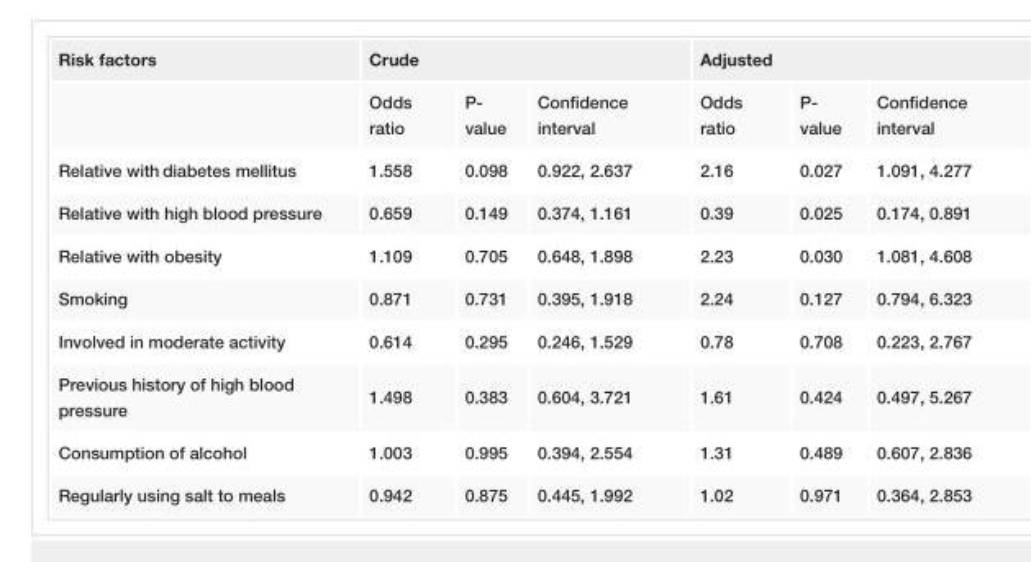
<table><tbody><tr><td rowspan="2">Risk factors</td><td colspan="3">Crude</td><td colspan="3">Adjusted</td></tr><tr><td>Odds ratio</td><td>P- value</td><td>Confidence interval</td><td>Odds ratio</td><td>P- value</td><td>Confidence interval</td></tr><tr><td>Relative with diabetes mellitus</td><td>1.558</td><td>0.098</td><td>0.922, 2.637</td><td>2.16</td><td>0.027</td><td>1.091, 4.277</td></tr><tr><td>Relative with high blood pressure</td><td>0.659</td><td>0.149</td><td>0.374, 1.161</td><td>0.39</td><td>0.025</td><td>0.174, 0.891</td></tr><tr><td>Relative with obesity</td><td>1.109</td><td>0.705</td><td>0.648, 1.898</td><td>2.23</td><td>0.030</td><td>1.081, 4.608</td></tr><tr><td>Smoking</td><td>0.871</td><td>0.731</td><td>0.395, 1.918</td><td>2.24</td><td>0.127</td><td>0.794, 6.323</td></tr><tr><td>Involved in moderate activity</td><td>0.614</td><td>0.295</td><td>0.246, 1.529</td><td>0.78</td><td>0.708</td><td>0.223, 2.767</td></tr><tr><td>Previous history of high blood pressure</td><td>1.498</td><td>0.383</td><td>0.604, 3.721</td><td>1.61</td><td>0.424</td><td>0.497, 5.267</td></tr><tr><td>Consumption of alcohol</td><td>1.003</td><td>0.995</td><td>0.394, 2.554</td><td>1.31</td><td>0.489</td><td>0.607, 2.836</td></tr><tr><td>Regularly using salt to meals</td><td>0.942</td><td>0.875</td><td>0.445, 1.992</td><td>1.02</td><td>0.971</td><td>0.364, 2.853</td></tr></tbody></table>